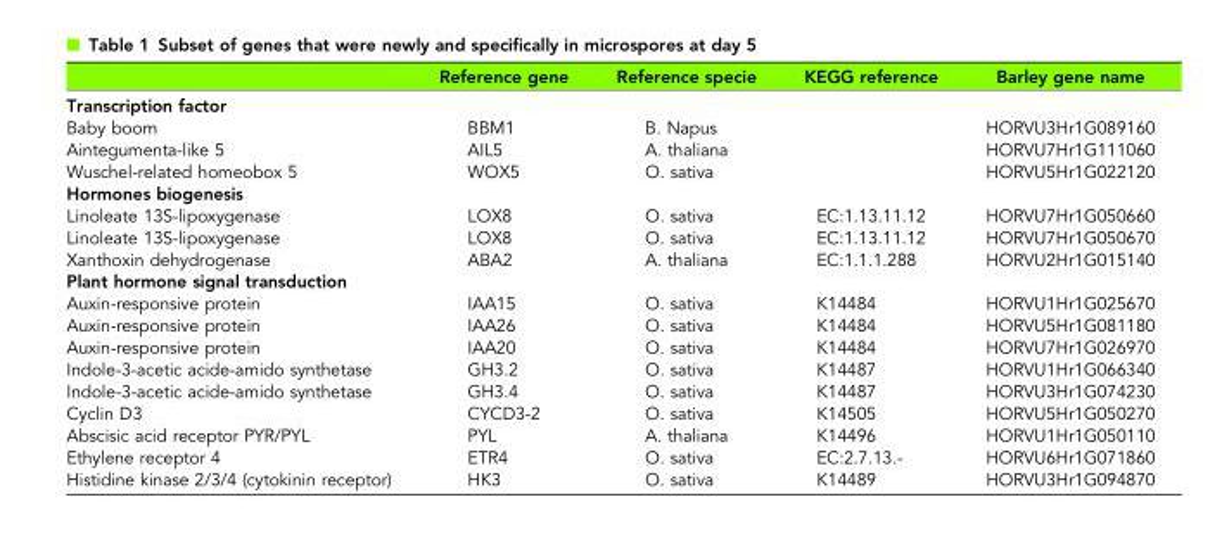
<table><thead><tr><td></td><td>Reference gene</td><td>Reference specie</td><td>KEGG reference</td><td>Barley gene name</td></tr></thead><tbody><tr><td colspan="5">Transcription factor</td></tr><tr><td>Baby boom</td><td>BBM1</td><td>B. Napus</td><td></td><td>HORVU3Hr1G089160</td></tr><tr><td>Aintegumenta-like 5</td><td>AIL5</td><td>A. thaliana</td><td></td><td>HORVU7Hr1G111060</td></tr><tr><td>Wuschel-related homeobox 5</td><td>WOX5</td><td>O. sativa</td><td></td><td>HORVU5Hr1G022120</td></tr><tr><td colspan="5">Hormones biogenesis</td></tr><tr><td>Linoleate 13S-lipoxygenase</td><td>LOX8</td><td>O. sativa</td><td>EC:1.13.11.12</td><td>HORVU7Hr1G050660</td></tr><tr><td>Linoleate 13S-lipoxygenase</td><td>LOX8</td><td>O. sativa</td><td>EC:1.13.11.12</td><td>HORVU7Hr1G050670</td></tr><tr><td>Xanthoxin dehydrogenase</td><td>ABA2</td><td>A. thaliana</td><td>EC:1.1.1.288</td><td>HORVU2Hr1G015140</td></tr><tr><td colspan="5">Plant hormone signal transduction</td></tr><tr><td>Auxin-responsive protein</td><td>IAA15</td><td>O. sativa</td><td>K14484</td><td>HORVU1Hr1G025670</td></tr><tr><td>Auxin-responsive protein</td><td>IAA26</td><td>O. sativa</td><td>K14484</td><td>HORVU5Hr1G081180</td></tr><tr><td>Auxin-responsive protein</td><td>IAA20</td><td>O. sativa</td><td>K14484</td><td>HORVU7Hr1G026970</td></tr><tr><td>Indole-3-acetic acide-amido synthetase</td><td>GH3.2</td><td>O. sativa</td><td>K14487</td><td>HORVU1Hr1G066340</td></tr><tr><td>Indole-3-acetic acide-amido synthetase</td><td>GH3.4</td><td>O. sativa</td><td>K14487</td><td>HORVU3Hr1G074230</td></tr><tr><td>Cyclin D3</td><td>CYCD3-2</td><td>O. sativa</td><td>K14505</td><td>HORVU5Hr1G050270</td></tr><tr><td>Abscisic acid receptor PYR/PYL</td><td>PYL</td><td>A. thaliana</td><td>K14496</td><td>HORVU1Hr1G050110</td></tr><tr><td>Ethylene receptor 4</td><td>ETR4</td><td>O. sativa</td><td>EC:2.7.13.-</td><td>HORVU6Hr1G071860</td></tr><tr><td>Histidine kinase 2/3/4 (cytokinin receptor)</td><td>HK3</td><td>O. sativa</td><td>K14489</td><td>HORVU3Hr1G094870</td></tr></tbody></table>